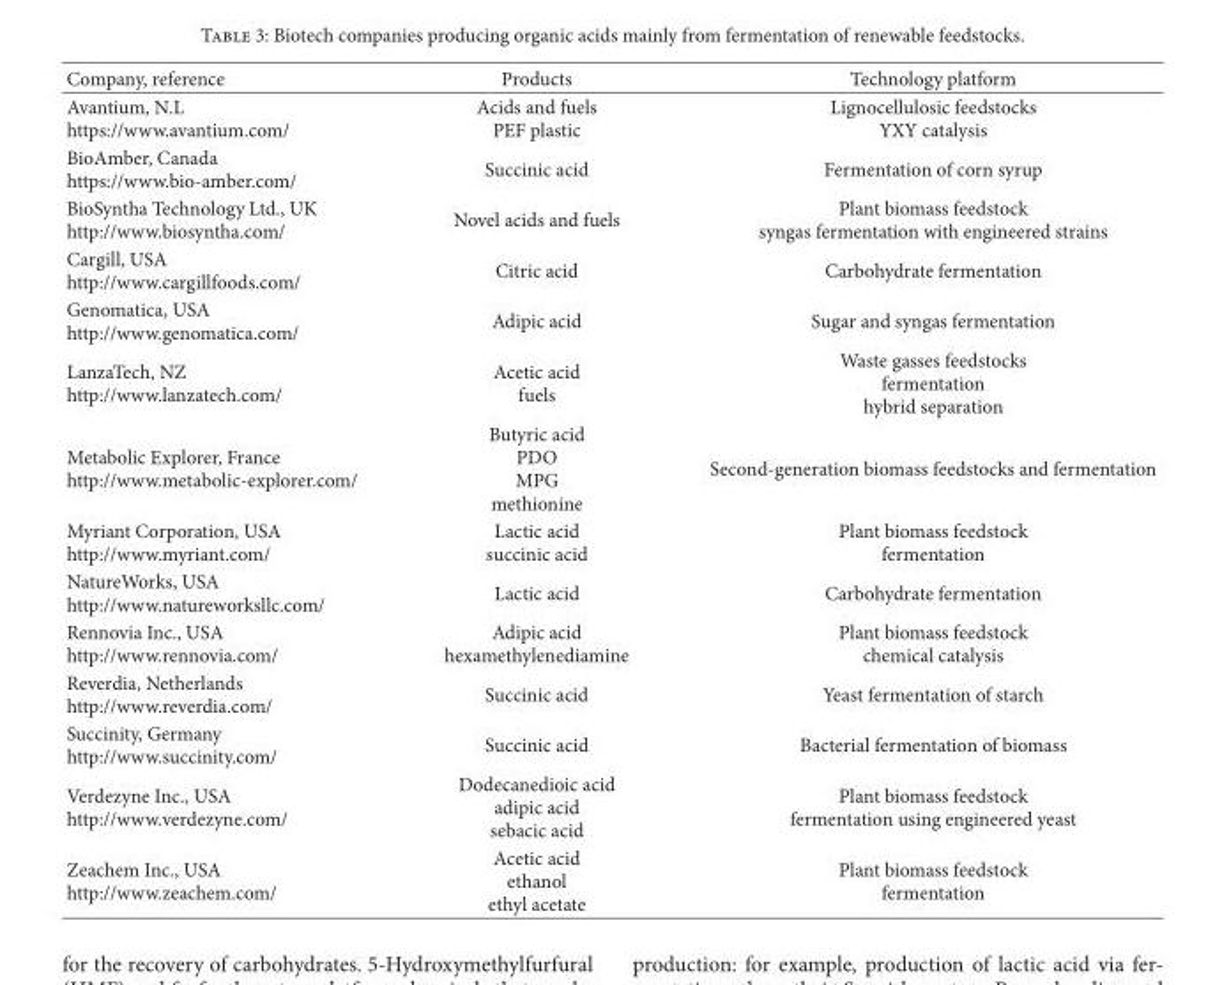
<table><thead><tr><td>Company, reference</td><td>Products</td><td>Technology platform</td></tr></thead><tbody><tr><td>Avantium, N.L https://www.avantium.com/</td><td>Acids and fuels PEF plastic</td><td>Lignocellulosic feedstocks YXY catalysis</td></tr><tr><td>BioAmber, Canada https://www.bio-amber.com/</td><td>Succinic acid</td><td>Fermentation of corn syrup</td></tr><tr><td>BioSyntha Technology Ltd., UK http://www.biosyntha.com/</td><td>Novel acids and fuels</td><td>Plant biomass feedstock syngas fermentation with engineered strains</td></tr><tr><td>Cargill, USA http://www.cargillfoods.com/</td><td>Citric acid</td><td>Carbohydrate fermentation</td></tr><tr><td>Genomatica, USA http://www.genomatica.com/</td><td>Adipic acid</td><td>Sugar and syngas fermentation</td></tr><tr><td>LanzaTech, NZ http://www.lanzatech.com/</td><td>Acetic acid fuels</td><td>Waste gasses feedstocks fermentation hybrid separation</td></tr><tr><td>Metabolic Explorer, France http://www.metabolic-explorer.com/</td><td>Butyric acid PDO MPG methionine</td><td>Second-generation biomass feedstocks and fermentation</td></tr><tr><td>Myriant Corporation, USA http://www.myriant.com/</td><td>Lactic acid succinic acid</td><td>Plant biomass feedstock fermentation</td></tr><tr><td>NatureWorks, USA http://www.natureworksllc.com/</td><td>Lactic acid</td><td>Carbohydrate fermentation</td></tr><tr><td>Rennovia Inc., USA http://www.rennovia.com/</td><td>Adipic acid hexamethylenediamine</td><td>Plant biomass feedstock chemical catalysis</td></tr><tr><td>Reverdia, Netherlands http://www.reverdia.com/</td><td>Succinic acid</td><td>Yeast fermentation of starch</td></tr><tr><td>Succinity, Germany http://www.succinity.com/</td><td>Succinic acid</td><td>Bacterial fermentation of biomass</td></tr><tr><td>Verdezyne Inc., USA http://www.verdezyne.com/</td><td>Dodecanedioic acid adipic acid sebacic acid</td><td>Plant biomass feedstock fermentation using engineered yeast</td></tr><tr><td>Zeachem Inc., USA http://www.zeachem.com/</td><td>Acetic acid ethanol ethyl acetate</td><td>Plant biomass feedstock fermentation</td></tr></tbody></table>